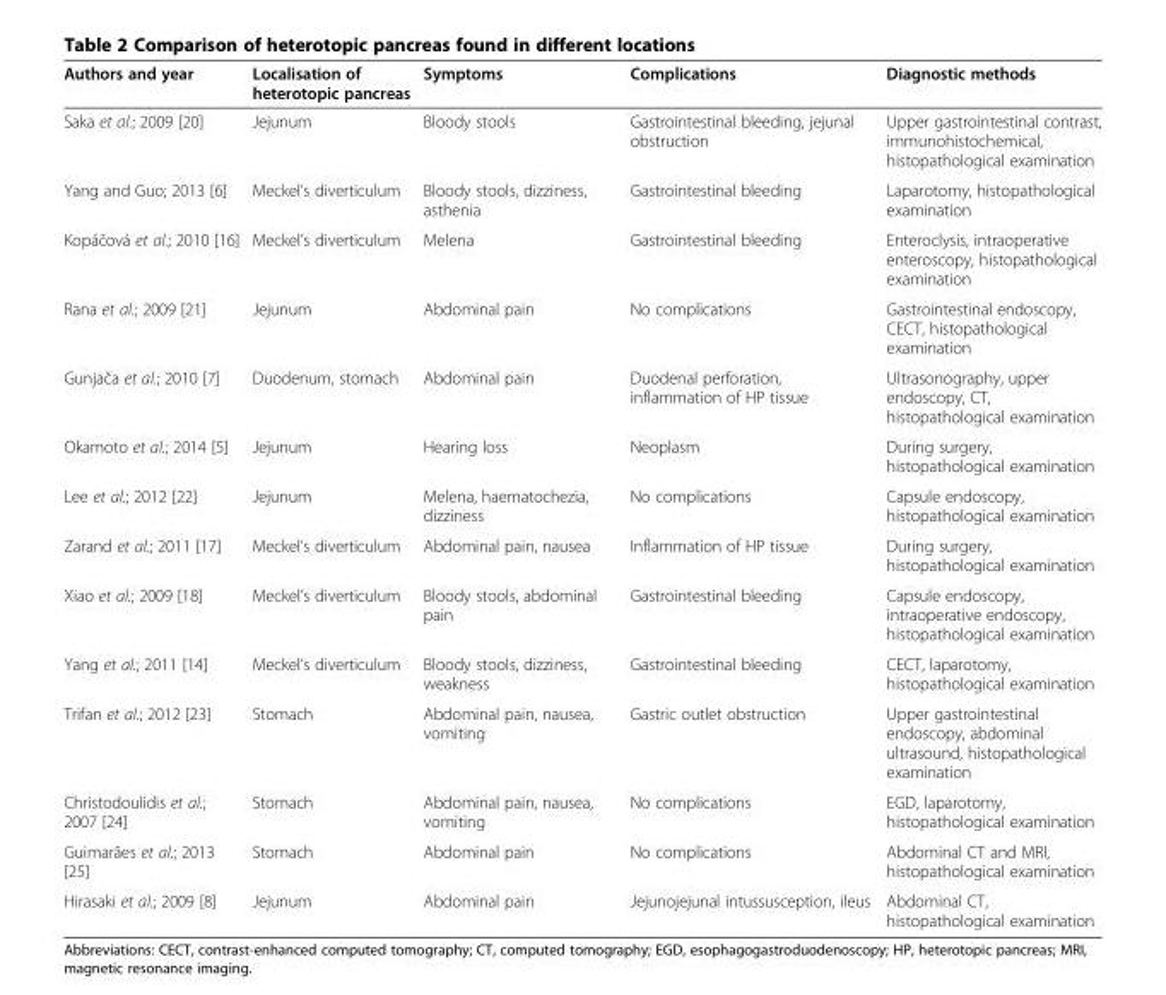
<table><thead><tr><td>Authors and year</td><td>Localisation of heterotopic pancreas</td><td>Symptoms</td><td>Complications</td><td>Diagnostic methods</td></tr></thead><tbody><tr><td>Saka et al.; 2009 [20]</td><td>Jejunum</td><td>Bloody stools</td><td>Gastrointestinal bleeding, jejunal obstruction</td><td>Upper gastrointestinal contrast, immunohistochemical, histopathological examination</td></tr><tr><td>Yang and Guo; 2013 [6]</td><td>Meckel’s diverticulum</td><td>Bloody stools, dizziness, asthenia</td><td>Gastrointestinal bleeding</td><td>Laparotomy, histopathological examination</td></tr><tr><td>Kopáčová et al.; 2010 [16]</td><td>Meckel’s diverticulum</td><td>Melena</td><td>Gastrointestinal bleeding</td><td>Enteroclysis, intraoperative enteroscopy, histopathological examination</td></tr><tr><td>Rana et al.; 2009 [21]</td><td>Jejunum</td><td>Abdominal pain</td><td>No complications</td><td>Gastrointestinal endoscopy, CECT, histopathological examination</td></tr><tr><td>Gunjača et al.; 2010 [7]</td><td>Duodenum, stomach</td><td>Abdominal pain</td><td>Duodenal perforation, inflammation of HP tissue</td><td>Ultrasonography, upper endoscopy, CT, histopathological examination</td></tr><tr><td>Okamoto et al.; 2014 [5]</td><td>Jejunum</td><td>Hearing loss</td><td>Neoplasm</td><td>During surgery, histopathological examination</td></tr><tr><td>Lee et al.; 2012 [22]</td><td>Jejunum</td><td>Melena, haematochezia, dizziness</td><td>No complications</td><td>Capsule endoscopy, histopathological examination</td></tr><tr><td>Zarand et al.; 2011 [17]</td><td>Meckel’s diverticulum</td><td>Abdominal pain, nausea</td><td>Inflammation of HP tissue</td><td>During surgery, histopathological examination</td></tr><tr><td>Xiao et al.; 2009 [18]</td><td>Meckel’s diverticulum</td><td>Bloody stools, abdominal pain</td><td>Gastrointestinal bleeding</td><td>Capsule endoscopy, intraoperative endoscopy, histopathological examination</td></tr><tr><td>Yang et al.; 2011 [14]</td><td>Meckel’s diverticulum</td><td>Bloody stools, dizziness, weakness</td><td>Gastrointestinal bleeding</td><td>CECT, laparotomy, histopathological examination</td></tr><tr><td>Trifan et al.; 2012 [23]</td><td>Stomach</td><td>Abdominal pain, nausea, vomiting</td><td>Gastric outlet obstruction</td><td>Upper gastrointestinal endoscopy, abdominal ultrasound, histopathological examination</td></tr><tr><td>Christodoulidis et al.; 2007 [24]</td><td>Stomach</td><td>Abdominal pain, nausea, vomiting</td><td>No complications</td><td>EGD, laparotomy, histopathological examination</td></tr><tr><td>Guimarães et al.; 2013 [25]</td><td>Stomach</td><td>Abdominal pain</td><td>No complications</td><td>Abdominal CT and MRI, histopathological examination</td></tr><tr><td>Hirasaki et al.; 2009 [8]</td><td>Jejunum</td><td>Abdominal pain</td><td>Jejunojejunal intussusception, ileus</td><td>Abdominal CT, histopathological examination</td></tr></tbody></table>